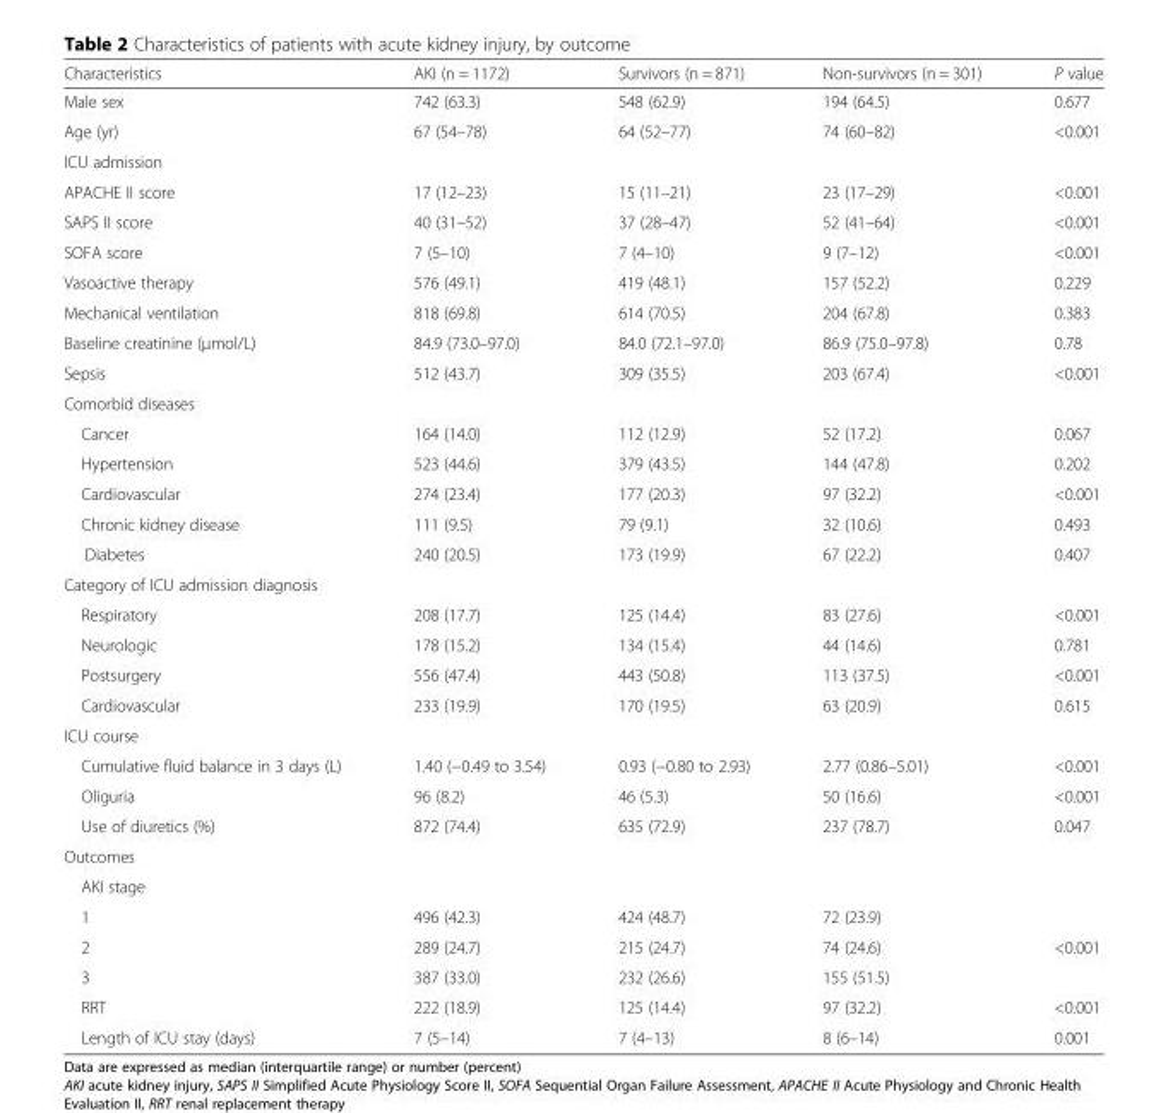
<table><thead><tr><td>Characteristics</td><td>AKI (n = 1172)</td><td>Survivors (n = 871)</td><td>Non-survivors (n = 301)</td><td>P value</td></tr></thead><tbody><tr><td>Male sex</td><td>742 (63.3)</td><td>548 (62.9)</td><td>194 (64.5)</td><td>0.677</td></tr><tr><td>Age (yr)</td><td>67 (54–78)</td><td>64 (52–77)</td><td>74 (60–82)</td><td>&lt;0.001</td></tr><tr><td colspan="5">ICU admission</td></tr><tr><td>APACHE II score</td><td>17 (12–23)</td><td>15 (11–21)</td><td>23 (17–29)</td><td>&lt;0.001</td></tr><tr><td>SAPS II score</td><td>40 (31–52)</td><td>37 (28–47)</td><td>52 (41–64)</td><td>&lt;0.001</td></tr><tr><td>SOFA score</td><td>7 (5–10)</td><td>7 (4–10)</td><td>9 (7–12)</td><td>&lt;0.001</td></tr><tr><td>Vasoactive therapy</td><td>576 (49.1)</td><td>419 (48.1)</td><td>157 (52.2)</td><td>0.229</td></tr><tr><td>Mechanical ventilation</td><td>818 (69.8)</td><td>614 (70.5)</td><td>204 (67.8)</td><td>0.383</td></tr><tr><td>Baseline creatinine (μmol/L)</td><td>84.9 (73.0–97.0)</td><td>84.0 (72.1–97.0)</td><td>86.9 (75.0–97.8)</td><td>0.78</td></tr><tr><td>Sepsis</td><td>512 (43.7)</td><td>309 (35.5)</td><td>203 (67.4)</td><td>&lt;0.001</td></tr><tr><td colspan="5">Comorbid diseases</td></tr><tr><td>Cancer</td><td>164 (14.0)</td><td>112 (12.9)</td><td>52 (17.2)</td><td>0.067</td></tr><tr><td>Hypertension</td><td>523 (44.6)</td><td>379 (43.5)</td><td>144 (47.8)</td><td>0.202</td></tr><tr><td>Cardiovascular</td><td>274 (23.4)</td><td>177 (20.3)</td><td>97 (32.2)</td><td>&lt;0.001</td></tr><tr><td>Chronic kidney disease</td><td>111 (9.5)</td><td>79 (9.1)</td><td>32 (10.6)</td><td>0.493</td></tr><tr><td>Diabetes</td><td>240 (20.5)</td><td>173 (19.9)</td><td>67 (22.2)</td><td>0.407</td></tr><tr><td colspan="5">Category of ICU admission diagnosis</td></tr><tr><td>Respiratory</td><td>208 (17.7)</td><td>125 (14.4)</td><td>83 (27.6)</td><td>&lt;0.001</td></tr><tr><td>Neurologic</td><td>178 (15.2)</td><td>134 (15.4)</td><td>44 (14.6)</td><td>0.781</td></tr><tr><td>Postsurgery</td><td>556 (47.4)</td><td>443 (50.8)</td><td>113 (37.5)</td><td>&lt;0.001</td></tr><tr><td>Cardiovascular</td><td>233 (19.9)</td><td>170 (19.5)</td><td>63 (20.9)</td><td>0.615</td></tr><tr><td colspan="5">ICU course</td></tr><tr><td>Cumulative fluid balance in 3 days (L)</td><td>1.40 (−0.49 to 3.54)</td><td>0.93 (−0.80 to 2.93)</td><td>2.77 (0.86–5.01)</td><td>&lt;0.001</td></tr><tr><td>Oliguria</td><td>96 (8.2)</td><td>46 (5.3)</td><td>50 (16.6)</td><td>&lt;0.001</td></tr><tr><td>Use of diuretics (%)</td><td>872 (74.4)</td><td>635 (72.9)</td><td>237 (78.7)</td><td>0.047</td></tr><tr><td colspan="5">Outcomes</td></tr><tr><td colspan="5">AKI stage</td></tr><tr><td>1</td><td>496 (42.3)</td><td>424 (48.7)</td><td>72 (23.9)</td><td></td></tr><tr><td>2</td><td>289 (24.7)</td><td>215 (24.7)</td><td>74 (24.6)</td><td>&lt;0.001</td></tr><tr><td>3</td><td>387 (33.0)</td><td>232 (26.6)</td><td>155 (51.5)</td><td></td></tr><tr><td>RRT</td><td>222 (18.9)</td><td>125 (14.4)</td><td>97 (32.2)</td><td>&lt;0.001</td></tr><tr><td>Length of ICU stay (days)</td><td>7 (5–14)</td><td>7 (4–13)</td><td>8 (6–14)</td><td>0.001</td></tr></tbody></table>